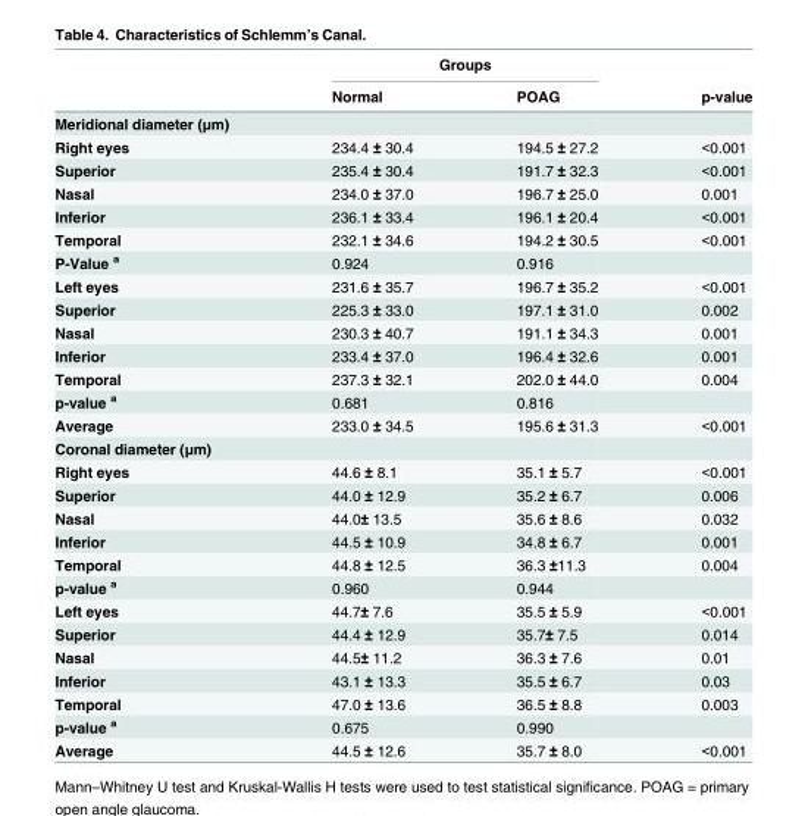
<table><thead><tr><td rowspan="2"></td><td colspan="2">Groups</td><td rowspan="2">p-value</td></tr><tr><td>Normal</td><td>POAG</td></tr></thead><tbody><tr><td colspan="4">Meridional diameter (μm)</td></tr><tr><td>Right eyes</td><td>234.4 ± 30.4</td><td>194.5 ± 27.2</td><td>&lt;0.001</td></tr><tr><td>Superior</td><td>235.4 ± 30.4</td><td>191.7 ± 32.3</td><td>&lt;0.001</td></tr><tr><td>Nasal</td><td>234.0 ± 37.0</td><td>196.7 ± 25.0</td><td>0.001</td></tr><tr><td>Inferior</td><td>236.1 ± 33.4</td><td>196.1 ± 20.4</td><td>&lt;0.001</td></tr><tr><td>Temporal</td><td>232.1 ± 34.6</td><td>194.2 ± 30.5</td><td>&lt;0.001</td></tr><tr><td>P-Value <sup>a</sup></td><td>0.924</td><td>0.916</td><td></td></tr><tr><td>Left eyes</td><td>231.6 ± 35.7</td><td>196.7 ± 35.2</td><td>&lt;0.001</td></tr><tr><td>Superior</td><td>225.3 ± 33.0</td><td>197.1 ± 31.0</td><td>0.002</td></tr><tr><td>Nasal</td><td>230.3 ± 40.7</td><td>191.1 ± 34.3</td><td>0.001</td></tr><tr><td>Inferior</td><td>233.4 ± 37.0</td><td>196.4 ± 32.6</td><td>0.001</td></tr><tr><td>Temporal</td><td>237.3 ± 32.1</td><td>202.0 ± 44.0</td><td>0.004</td></tr><tr><td>p-value <sup>a</sup></td><td>0.681</td><td>0.816</td><td></td></tr><tr><td>Average</td><td>233.0 ± 34.5</td><td>195.6 ± 31.3</td><td>&lt;0.001</td></tr><tr><td colspan="4">Coronal diameter (μm)</td></tr><tr><td>Right eyes</td><td>44.6 ± 8.1</td><td>35.1 ± 5.7</td><td>&lt;0.001</td></tr><tr><td>Superior</td><td>44.0 ± 12.9</td><td>35.2 ± 6.7</td><td>0.006</td></tr><tr><td>Nasal</td><td>44.0± 13.5</td><td>35.6 ± 8.6</td><td>0.032</td></tr><tr><td>Inferior</td><td>44.5 ± 10.9</td><td>34.8 ± 6.7</td><td>0.001</td></tr><tr><td>Temporal</td><td>44.8 ± 12.5</td><td>36.3 ±11.3</td><td>0.004</td></tr><tr><td>p-value <sup>a</sup></td><td>0.960</td><td>0.944</td><td></td></tr><tr><td>Left eyes</td><td>44.7± 7.6</td><td>35.5 ± 5.9</td><td>&lt;0.001</td></tr><tr><td>Superior</td><td>44.4 ± 12.9</td><td>35.7± 7.5</td><td>0.014</td></tr><tr><td>Nasal</td><td>44.5± 11.2</td><td>36.3 ± 7.6</td><td>0.01</td></tr><tr><td>Inferior</td><td>43.1 ± 13.3</td><td>35.5 ± 6.7</td><td>0.03</td></tr><tr><td>Temporal</td><td>47.0 ± 13.6</td><td>36.5 ± 8.8</td><td>0.003</td></tr><tr><td>p-value <sup>a</sup></td><td>0.675</td><td>0.990</td><td></td></tr><tr><td>Average</td><td>44.5 ± 12.6</td><td>35.7 ± 8.0</td><td>&lt;0.001</td></tr></tbody></table>